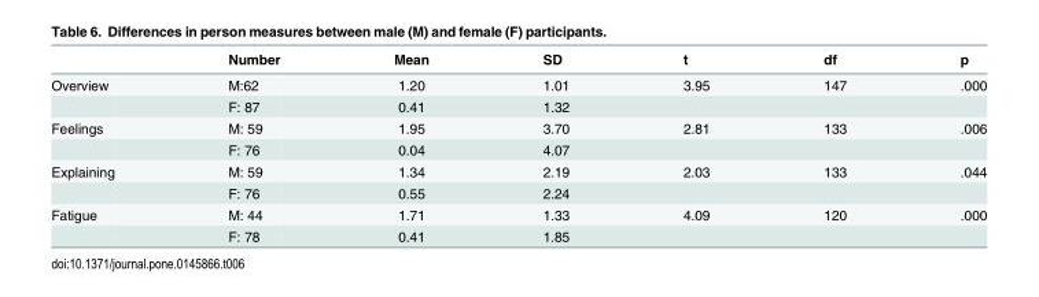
<table><thead><tr><td></td><td>Number</td><td>Mean</td><td>SD</td><td>t</td><td>df</td><td>p</td></tr></thead><tbody><tr><td rowspan="2">Overview</td><td>M:62</td><td>1.20</td><td>1.01</td><td>3.95</td><td>147</td><td>.000</td></tr><tr><td>F: 87</td><td>0.41</td><td>1.32</td><td></td><td></td><td></td></tr><tr><td rowspan="2">Feelings</td><td>M: 59</td><td>1.95</td><td>3.70</td><td>2.81</td><td>133</td><td>.006</td></tr><tr><td>F: 76</td><td>0.04</td><td>4.07</td><td></td><td></td><td></td></tr><tr><td rowspan="2">Explaining</td><td>M: 59</td><td>1.34</td><td>2.19</td><td>2.03</td><td>133</td><td>.044</td></tr><tr><td>F: 76</td><td>0.55</td><td>2.24</td><td></td><td></td><td></td></tr><tr><td rowspan="2">Fatigue</td><td>M: 44</td><td>1.71</td><td>1.33</td><td>4.09</td><td>120</td><td>.000</td></tr><tr><td>F: 78</td><td>0.41</td><td>1.85</td><td></td><td></td><td></td></tr></tbody></table>